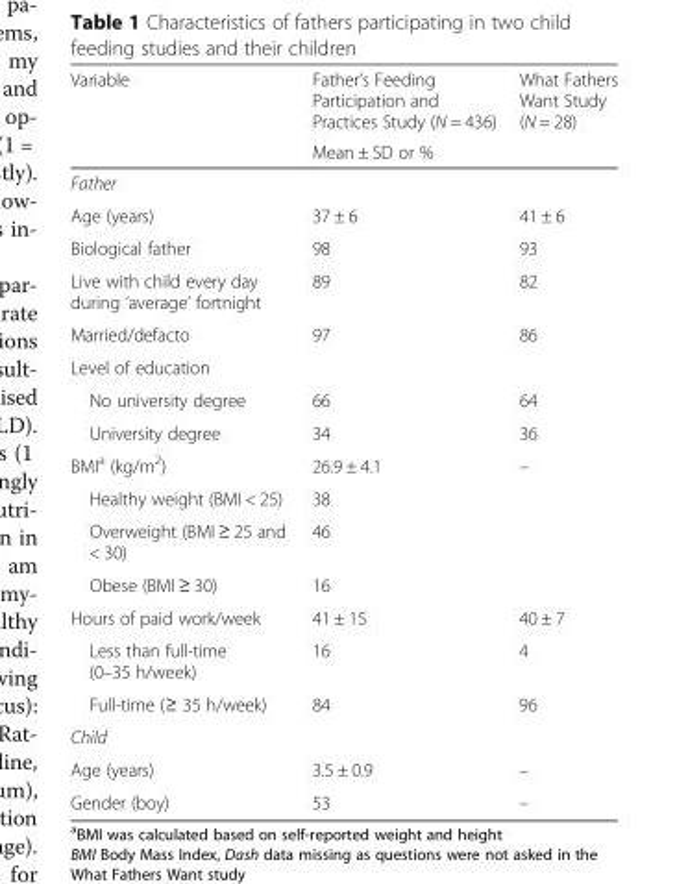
<table><thead><tr><td rowspan="2">Variable</td><td>Father’s Feeding Participation and Practices Study (N = 436)</td><td>What Fathers Want Study (N = 28)</td></tr><tr><td colspan="2">Mean ± SD or %</td></tr></thead><tbody><tr><td colspan="3">Father</td></tr><tr><td>Age (years)</td><td>37 ± 6</td><td>41 ± 6</td></tr><tr><td>Biological father</td><td>98</td><td>93</td></tr><tr><td>Live with child every day during ‘average’ fortnight</td><td>89</td><td>82</td></tr><tr><td>Married/defacto</td><td>97</td><td>86</td></tr><tr><td colspan="3">Level of education</td></tr><tr><td>No university degree</td><td>66</td><td>64</td></tr><tr><td>University degree</td><td>34</td><td>36</td></tr><tr><td>BMI<sup>a</sup> (kg/m<sup>2</sup>)</td><td>26.9 ± 4.1</td><td>–</td></tr><tr><td>Healthy weight (BMI &lt; 25)</td><td>38</td><td></td></tr><tr><td>Overweight (BMI ≥ 25 and &lt; 30)</td><td>46</td><td></td></tr><tr><td>Obese (BMI ≥ 30)</td><td>16</td><td></td></tr><tr><td>Hours of paid work/week</td><td>41 ± 15</td><td>40 ± 7</td></tr><tr><td>Less than full-time (0–35 h/week)</td><td>16</td><td>4</td></tr><tr><td>Full-time (≥ 35 h/week)</td><td>84</td><td>96</td></tr><tr><td colspan="3">Child</td></tr><tr><td>Age (years)</td><td>3.5 ± 0.9</td><td>–</td></tr><tr><td>Gender (boy)</td><td>53</td><td>–</td></tr></tbody></table>